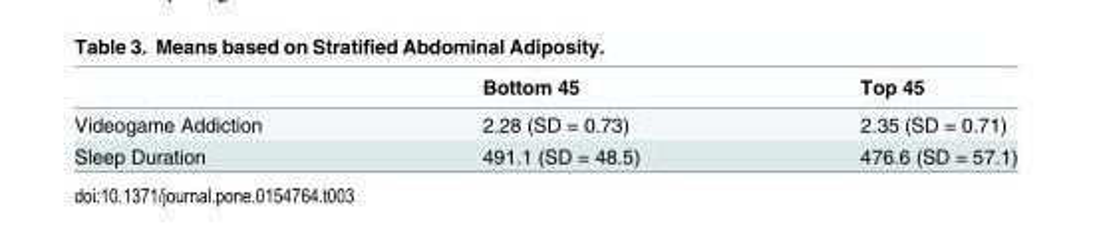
<table><thead><tr><td></td><td>Bottom 45</td><td>Top 45</td></tr></thead><tbody><tr><td>Videogame Addiction</td><td>2.28 (SD = 0.73)</td><td>2.35 (SD = 0.71)</td></tr><tr><td>Sleep Duration</td><td>491.1 (SD = 48.5)</td><td>476.6 (SD = 57.1)</td></tr></tbody></table>